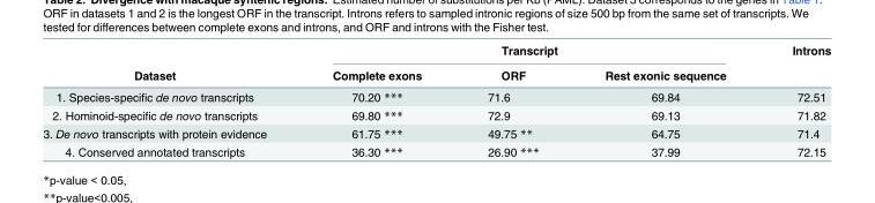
<table><thead><tr><td rowspan="2">Dataset</td><td colspan="3">Transcript</td><td rowspan="2">Introns</td></tr><tr><td>Complete exons</td><td>ORF</td><td>Rest exonic sequence</td></tr></thead><tbody><tr><td>1. Species-specific de novo transcripts</td><td>70.20 ***</td><td>71.6</td><td>69.84</td><td>72.51</td></tr><tr><td>2. Hominoid-specific de novo transcripts</td><td>69.80 ***</td><td>72.9</td><td>69.13</td><td>71.82</td></tr><tr><td>3. De novo transcripts with protein evidence</td><td>61.75 ***</td><td>49.75 **</td><td>64.75</td><td>71.4</td></tr><tr><td>4. Conserved annotated transcripts</td><td>36.30 ***</td><td>26.90 ***</td><td>37.99</td><td>72.15</td></tr></tbody></table>